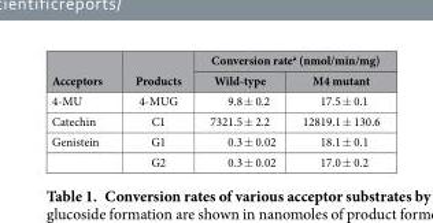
<table><thead><tr><td rowspan="2">Acceptors</td><td rowspan="2">Products</td><td colspan="2">Conversion rate<sup>a</sup> (nmol/min/mg)</td></tr><tr><td>Wild-type</td><td>M4 mutant</td></tr></thead><tbody><tr><td>4-MU</td><td>4-MUG</td><td>9.8 ± 0.2</td><td>17.5 ± 0.1</td></tr><tr><td>Catechin</td><td>C1</td><td>7321.5 ± 2.2</td><td>12819.1 ± 130.6</td></tr><tr><td rowspan="2">Genistein</td><td>G1</td><td>0.3 ± 0.02</td><td>18.1 ± 0.1</td></tr><tr><td>G2</td><td>0.3 ± 0.02</td><td>17.0 ± 0.2</td></tr></tbody></table>